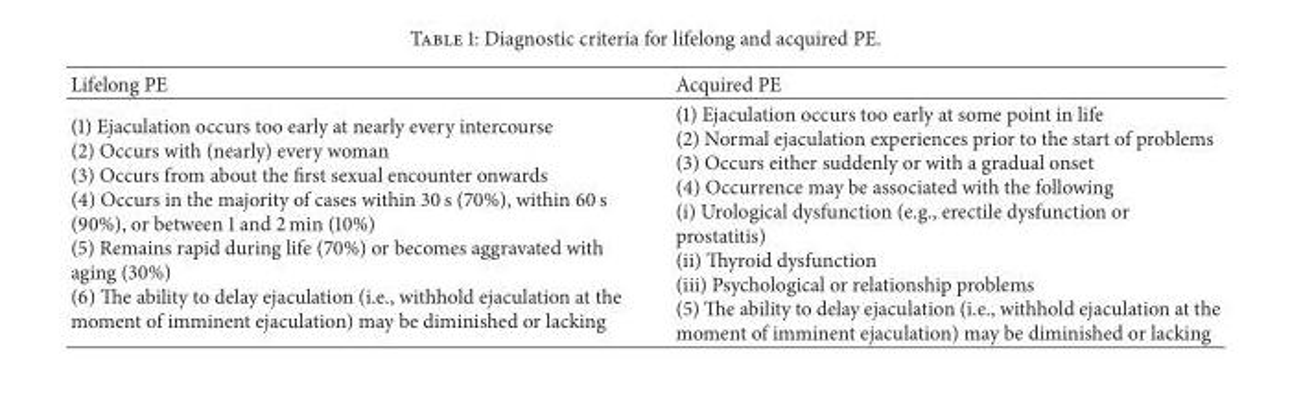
<table><thead><tr><td>Lifelong PE</td><td>Acquired PE</td></tr></thead><tbody><tr><td>(1) Ejaculation occurs too early at nearly every intercourse (2) Occurs with (nearly) every woman (3) Occurs from about the first sexual encounter onwards (4) Occurs in the majority of cases within 30 s (70%), within 60 s (90%), or between 1 and 2 min (10%) (5) Remains rapid during life (70%) or becomes aggravated with aging (30%) (6) The ability to delay ejaculation (i.e., withhold ejaculation at the moment of imminent ejaculation) may be diminished or lacking</td><td>(1) Ejaculation occurs too early at some point in life (2) Normal ejaculation experiences prior to the start of problems (3) Occurs either suddenly or with a gradual onset (4) Occurrence may be associated with the following (i) Urological dysfunction (e.g., erectile dysfunction or prostatitis) (ii) Thyroid dysfunction (iii) Psychological or relationship problems (5) The ability to delay ejaculation (i.e., withhold ejaculation at the moment of imminent ejaculation) may be diminished or lacking</td></tr></tbody></table>